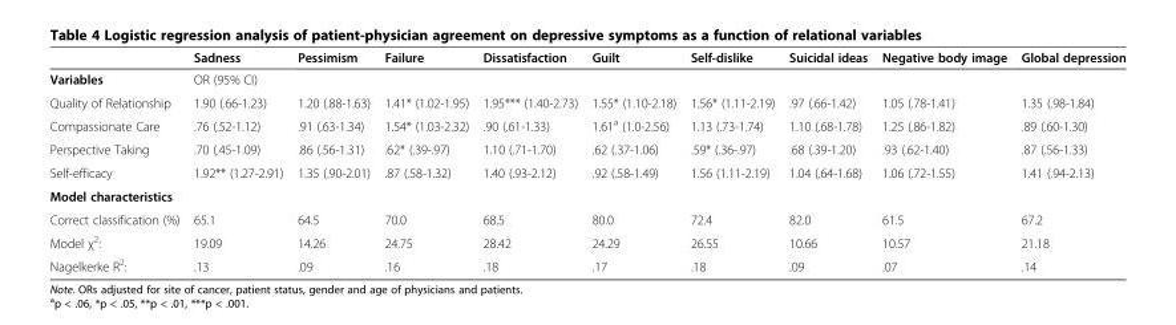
<table><thead><tr><td></td><td>Sadness</td><td>Pessimism</td><td>Failure</td><td>Dissatisfaction</td><td>Guilt</td><td>Self-dislike</td><td>Suicidal ideas</td><td>Negative body image</td><td>Global depression</td></tr></thead><tbody><tr><td>Variables</td><td colspan="8">OR (95% CI)</td><td></td></tr><tr><td>Quality of Relationship</td><td>1.90 (.66-1.23)</td><td>1.20 (.88-1.63)</td><td>1.41* (1.02-1.95)</td><td>1.95*** (1.40-2.73)</td><td>1.55* (1.10-2.18)</td><td>1.56* (1.11-2.19)</td><td>.97 (.66-1.42)</td><td>1.05 (.78-1.41)</td><td>1.35 (.98-1.84)</td></tr><tr><td>Compassionate Care</td><td>.76 (.52-1.12)</td><td>.91 (.63-1.34)</td><td>1.54* (1.03-2.32)</td><td>.90 (.61-1.33)</td><td>1.61<sup>a</sup> (1.0-2.56)</td><td>1.13 (.73-1.74)</td><td>1.10 (.68-1.78)</td><td>1.25 (.86-1.82)</td><td>.89 (.60-1.30)</td></tr><tr><td>Perspective Taking</td><td>.70 (.45-1.09)</td><td>.86 (.56-1.31)</td><td>.62* (.39-.97)</td><td>1.10 (.71-1.70)</td><td>.62 (.37-1.06)</td><td>.59* (.36-.97)</td><td>.68 (.39-1.20)</td><td>.93 (.62-1.40)</td><td>.87 (.56-1.33)</td></tr><tr><td>Self-efficacy</td><td>1.92** (1.27-2.91)</td><td>1.35 (.90-2.01)</td><td>.87 (.58-1.32)</td><td>1.40 (.93-2.12)</td><td>.92 (.58-1.49)</td><td>1.56 (1.11-2.19)</td><td>1.04 (.64-1.68)</td><td>1.06 (.72-1.55)</td><td>1.41 (.94-2.13)</td></tr><tr><td colspan="10">Model characteristics</td></tr><tr><td>Correct classification (%)</td><td>65.1</td><td>64.5</td><td>70.0</td><td>68.5</td><td>80.0</td><td>72.4</td><td>82.0</td><td>61.5</td><td>67.2</td></tr><tr><td>Model χ<sup>2</sup>:</td><td>19.09</td><td>14.26</td><td>24.75</td><td>28.42</td><td>24.29</td><td>26.55</td><td>10.66</td><td>10.57</td><td>21.18</td></tr><tr><td>Nagelkerke R<sup>2</sup>:</td><td>.13</td><td>.09</td><td>.16</td><td>.18</td><td>.17</td><td>.18</td><td>.09</td><td>.07</td><td>.14</td></tr></tbody></table>